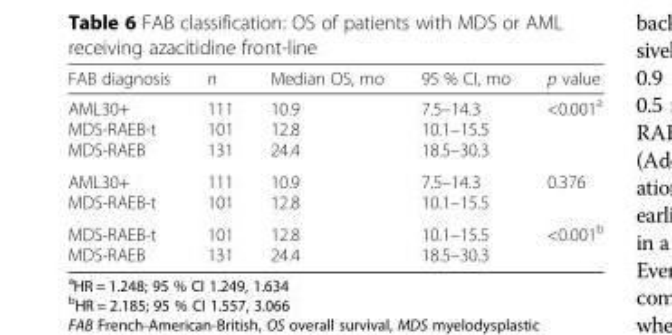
<table><thead><tr><td>FAB diagnosis</td><td>n</td><td>Median OS, mo</td><td>95 % CI, mo</td><td>p value</td></tr></thead><tbody><tr><td>AML30+ MDS-RAEB-t MDS-RAEB</td><td>111 101 131</td><td>10.9 12.8 24.4</td><td>7.5–14.3 10.1–15.5 18.5–30.3</td><td>&lt;0.001<sup>a</sup></td></tr><tr><td>AML30+ MDS-RAEB-t</td><td>111 101</td><td>10.9 12.8</td><td>7.5–14.3 10.1–15.5</td><td>0.376</td></tr><tr><td>MDS-RAEB-t MDS-RAEB</td><td>101 131</td><td>12.8 24.4</td><td>10.1–15.5 18.5–30.3</td><td>&lt;0.001<sup>b</sup></td></tr></tbody></table>